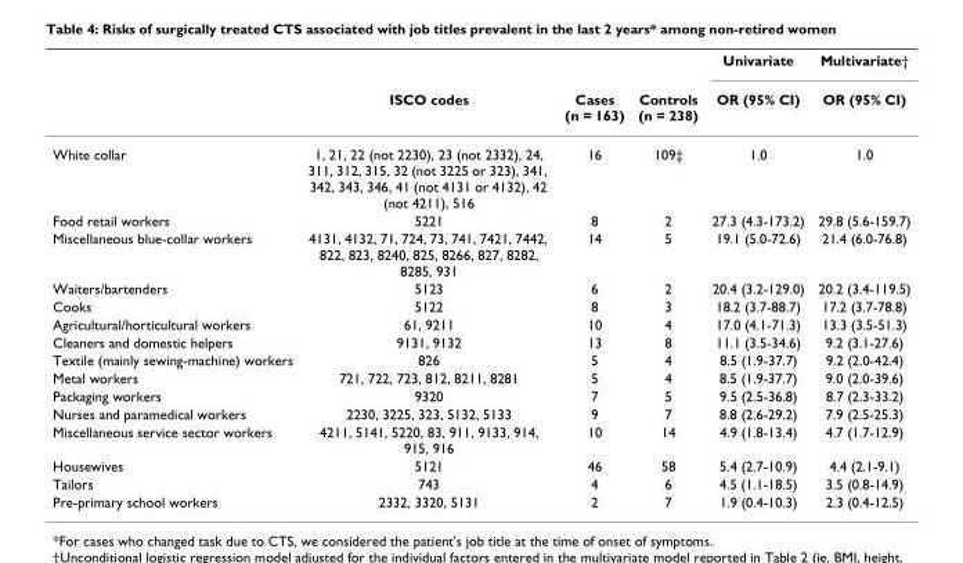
<table><thead><tr><td rowspan="2"></td><td rowspan="2">ISCO codes</td><td rowspan="2">Cases (n = 163)</td><td rowspan="2">Controls (n = 238)</td><td rowspan="2">Univariate OR (95% CI)</td><td rowspan="2">Multivariate† OR (95% CI)</td></tr><tr></tr></thead><tbody><tr><td>White collar</td><td>1, 21, 22 (not 2230), 23 (not 2332), 24, 311, 312, 315, 32 (not 3225 or 323), 341, 342, 343, 346, 41 (not 4131 or 4132), 42 (not 4211), 516</td><td>16</td><td>109‡</td><td>1.0</td><td>1.0</td></tr><tr><td>Food retail workers</td><td>5221</td><td>8</td><td>2</td><td>27.3 (4.3-173.2)</td><td>29.8 (5.6-159.7)</td></tr><tr><td>Miscellaneous blue-collar workers</td><td>4131, 4132, 71, 724, 73, 741, 7421, 7442, 822, 823, 8240, 825, 8266, 827, 8282, 8285, 931</td><td>14</td><td>5</td><td>19.1 (5.0-72.6)</td><td>21.4 (6.0-76.8)</td></tr><tr><td>Waiters/bartenders</td><td>5123</td><td>6</td><td>2</td><td>20.4 (3.2-129.0)</td><td>20.2 (3.4-119.5)</td></tr><tr><td>Cooks</td><td>5122</td><td>8</td><td>3</td><td>18.2 (3.7-88.7)</td><td>17.2 (3.7-78.8)</td></tr><tr><td>Agricultural/horticultural workers</td><td>61, 9211</td><td>10</td><td>4</td><td>17.0 (4.1-71.3)</td><td>13.3 (3.5-51.3)</td></tr><tr><td>Cleaners and domestic helpers</td><td>9131, 9132</td><td>13</td><td>8</td><td>11.1 (3.5-34.6)</td><td>9.2 (3.1-27.6)</td></tr><tr><td>Textile (mainly sewing-machine) workers</td><td>826</td><td>5</td><td>4</td><td>8.5 (1.9-37.7)</td><td>9.2 (2.0-42.4)</td></tr><tr><td>Metal workers</td><td>721, 722, 723, 812, 8211, 8281</td><td>5</td><td>4</td><td>8.5 (1.9-37.7)</td><td>9.0 (2.0-39.6)</td></tr><tr><td>Packaging workers</td><td>9320</td><td>7</td><td>5</td><td>9.5 (2.5-36.8)</td><td>8.7 (2.3-33.2)</td></tr><tr><td>Nurses and paramedical workers</td><td>2230, 3225, 323, 5132, 5133</td><td>9</td><td>7</td><td>8.8 (2.6-29.2)</td><td>7.9 (2.5-25.3)</td></tr><tr><td>Miscellaneous service sector workers</td><td>4211, 5141, 5220, 83, 911, 9133, 914, 915, 916</td><td>10</td><td>14</td><td>4.9 (1.8-13.4)</td><td>4.7 (1.7-12.9)</td></tr><tr><td>Housewives</td><td>5121</td><td>46</td><td>58</td><td>5.4 (2.7-10.9)</td><td>4.4 (2.1-9.1)</td></tr><tr><td>Tailors</td><td>743</td><td>4</td><td>6</td><td>4.5 (1.1-18.5)</td><td>3.5 (0.8-14.9)</td></tr><tr><td>Pre-primary school workers</td><td>2332, 3320, 5131</td><td>2</td><td>7</td><td>1.9 (0.4-10.3)</td><td>2.3 (0.4-12.5)</td></tr></tbody></table>